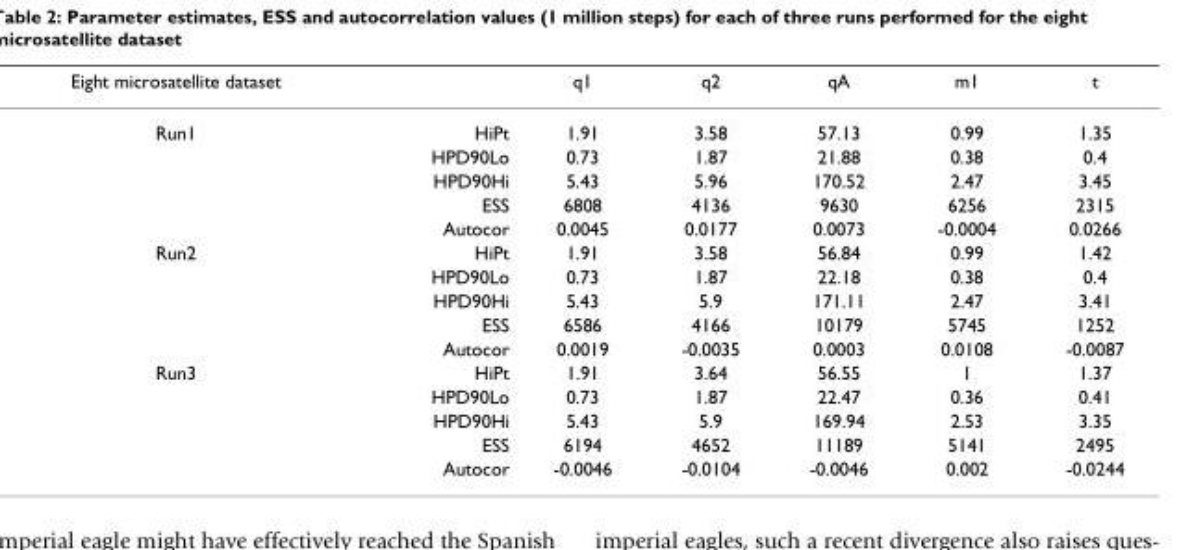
<table><thead><tr><td>Eight microsatellite dataset</td><td></td><td>q1</td><td>q2</td><td>qA</td><td>m1</td><td>t</td></tr></thead><tbody><tr><td rowspan="5">Run1</td><td>HiPt</td><td>1.91</td><td>3.58</td><td>57.13</td><td>0.99</td><td>1.35</td></tr><tr><td>HPD90Lo</td><td>0.73</td><td>1.87</td><td>21.88</td><td>0.38</td><td>0.4</td></tr><tr><td>HPD90Hi</td><td>5.43</td><td>5.96</td><td>170.52</td><td>2.47</td><td>3.45</td></tr><tr><td>ESS</td><td>6808</td><td>4136</td><td>9630</td><td>6256</td><td>2315</td></tr><tr><td>Autocor</td><td>0.0045</td><td>0.0177</td><td>0.0073</td><td>-0.0004</td><td>0.0266</td></tr><tr><td rowspan="5">Run2</td><td>HiPt</td><td>1.91</td><td>3.58</td><td>56.84</td><td>0.99</td><td>1.42</td></tr><tr><td>HPD90Lo</td><td>0.73</td><td>1.87</td><td>22.18</td><td>0.38</td><td>0.4</td></tr><tr><td>HPD90Hi</td><td>5.43</td><td>5.9</td><td>171.11</td><td>2.47</td><td>3.41</td></tr><tr><td>ESS</td><td>6586</td><td>4166</td><td>10179</td><td>5745</td><td>1252</td></tr><tr><td>Autocor</td><td>0.0019</td><td>-0.0035</td><td>0.0003</td><td>0.0108</td><td>-0.0087</td></tr><tr><td rowspan="5">Run3</td><td>HiPt</td><td>1.91</td><td>3.64</td><td>56.55</td><td>1</td><td>1.37</td></tr><tr><td>HPD90Lo</td><td>0.73</td><td>1.87</td><td>22.47</td><td>0.36</td><td>0.41</td></tr><tr><td>HPD90Hi</td><td>5.43</td><td>5.9</td><td>169.94</td><td>2.53</td><td>3.35</td></tr><tr><td>ESS</td><td>6194</td><td>4652</td><td>11189</td><td>5141</td><td>2495</td></tr><tr><td>Autocor</td><td>-0.0046</td><td>-0.0104</td><td>-0.0046</td><td>0.002</td><td>-0.0244</td></tr></tbody></table>